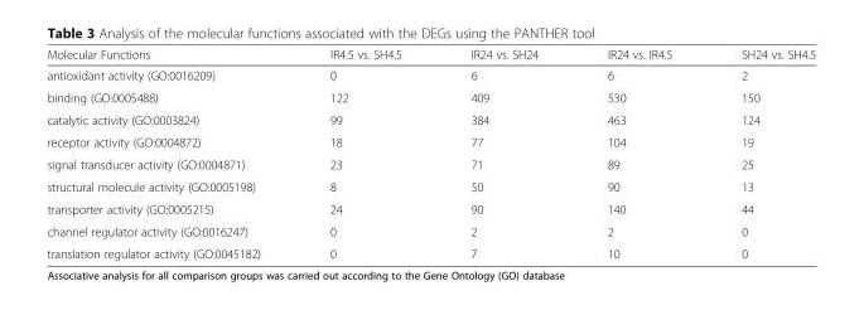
<table><thead><tr><td>Molecular Functions</td><td>IR4.5 vs. SH4.5</td><td>IR24 vs. SH24</td><td>IR24 vs. IR4.5</td><td>SH24 vs. SH4.5</td></tr></thead><tbody><tr><td>antioxidant activity (GO:0016209)</td><td>0</td><td>6</td><td>6</td><td>2</td></tr><tr><td>binding (GO:0005488)</td><td>122</td><td>409</td><td>530</td><td>150</td></tr><tr><td>catalytic activity (GO:0003824)</td><td>99</td><td>384</td><td>463</td><td>124</td></tr><tr><td>receptor activity (GO:0004872)</td><td>18</td><td>77</td><td>104</td><td>19</td></tr><tr><td>signal transducer activity (GO:0004871)</td><td>23</td><td>71</td><td>89</td><td>25</td></tr><tr><td>structural molecule activity (GO:0005198)</td><td>8</td><td>50</td><td>90</td><td>13</td></tr><tr><td>transporter activity (GO:0005215)</td><td>24</td><td>90</td><td>140</td><td>44</td></tr><tr><td>channel regulator activity (GO:0016247)</td><td>0</td><td>2</td><td>2</td><td>0</td></tr><tr><td>translation regulator activity (GO:0045182)</td><td>0</td><td>7</td><td>10</td><td>0</td></tr></tbody></table>